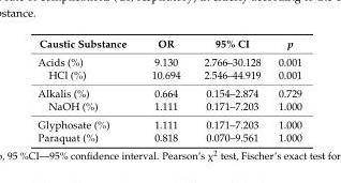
<table><thead><tr><td>Caustic Substance</td><td>OR</td><td>95% CI</td><td>p</td></tr></thead><tbody><tr><td>Acids (%)</td><td>9.130</td><td>2.766–30.128</td><td>0.001</td></tr><tr><td>HCl (%)</td><td>10.694</td><td>2.546–44.919</td><td>0.001</td></tr><tr><td>Alkalis (%)</td><td>0.664</td><td>0.154–2.874</td><td>0.729</td></tr><tr><td>NaOH (%)</td><td>1.111</td><td>0.171–7.203</td><td>1.000</td></tr><tr><td>Glyphosate (%)</td><td>1.111</td><td>0.171–7.203</td><td>1.000</td></tr><tr><td>Paraquat (%)</td><td>0.818</td><td>0.070–9.561</td><td>1.000</td></tr></tbody></table>